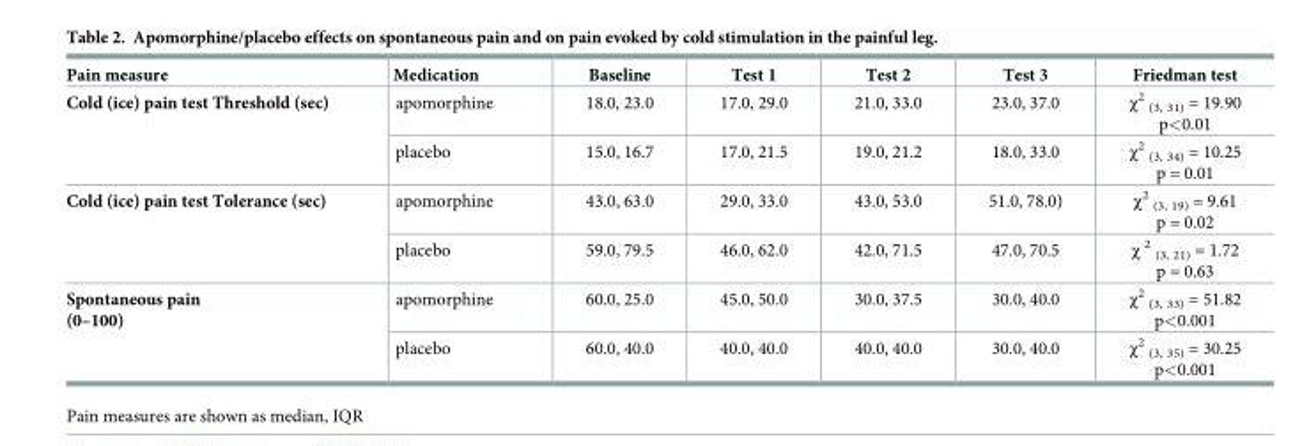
<table><thead><tr><td>Pain measure</td><td>Medication</td><td>Baseline</td><td>Test 1</td><td>Test 2</td><td>Test 3</td><td>Friedman test</td></tr></thead><tbody><tr><td rowspan="2">Cold (ice) pain test Threshold (sec)</td><td>apomorphine</td><td>18.0, 23.0</td><td>17.0, 29.0</td><td>21.0, 33.0</td><td>23.0, 37.0</td><td>χ<sup>2</sup> <sub>(3, 31)</sub> = 19.90 p&lt;0.01</td></tr><tr><td>placebo</td><td>15.0, 16.7</td><td>17.0, 21.5</td><td>19.0, 21.2</td><td>18.0, 33.0</td><td>χ<sup>2</sup> <sub>(3, 34)</sub> = 10.25 p = 0.01</td></tr><tr><td rowspan="2">Cold (ice) pain test Tolerance (sec)</td><td>apomorphine</td><td>43.0, 63.0</td><td>29.0, 33.0</td><td>43.0, 53.0</td><td>51.0, 78.0)</td><td>χ<sup>2</sup> <sub>(3, 19)</sub> = 9.61 p = 0.02</td></tr><tr><td>placebo</td><td>59.0, 79.5</td><td>46.0, 62.0</td><td>42.0, 71.5</td><td>47.0, 70.5</td><td>χ <sup>2</sup> <sub>(3, 21)</sub> = 1.72 p = 0.63</td></tr><tr><td rowspan="2">Spontaneous pain (0–100)</td><td>apomorphine</td><td>60.0, 25.0</td><td>45.0, 50.0</td><td>30.0, 37.5</td><td>30.0, 40.0</td><td>χ<sup>2</sup> <sub>(3, 33)</sub> = 51.82 p&lt;0.001</td></tr><tr><td>placebo</td><td>60.0, 40.0</td><td>40.0, 40.0</td><td>40.0, 40.0</td><td>30.0, 40.0</td><td>χ<sup>2</sup> <sub>(3, 35)</sub> = 30.25 p&lt;0.001</td></tr></tbody></table>